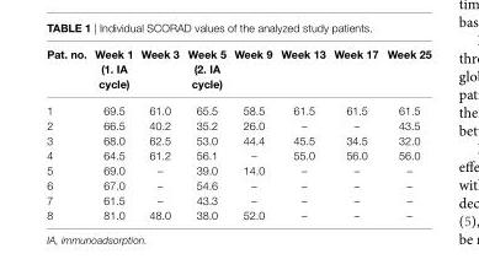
<table><thead><tr><td>Pat. no.</td><td>Week 1 (1. ia cycle)</td><td>Week 3</td><td>Week 5 (2. ia cycle)</td><td>Week 9</td><td>Week 13</td><td>Week 17</td><td>Week 25</td></tr></thead><tbody><tr><td>1</td><td>69.5</td><td>61.0</td><td>65.5</td><td>58.5</td><td>61.5</td><td>61.5</td><td>61.5</td></tr><tr><td>2</td><td>66.5</td><td>40.2</td><td>35.2</td><td>26.0</td><td>–</td><td>–</td><td>43.5</td></tr><tr><td>3</td><td>68.0</td><td>62.5</td><td>53.0</td><td>44.4</td><td>45.5</td><td>34.5</td><td>32.0</td></tr><tr><td>4</td><td>64.5</td><td>61.2</td><td>56.1</td><td>–</td><td>55.0</td><td>56.0</td><td>56.0</td></tr><tr><td>5</td><td>69.0</td><td>–</td><td>39.0</td><td>14.0</td><td>–</td><td>–</td><td>–</td></tr><tr><td>6</td><td>67.0</td><td>–</td><td>54.6</td><td>–</td><td>–</td><td>–</td><td>–</td></tr><tr><td>7</td><td>61.5</td><td>–</td><td>43.3</td><td>–</td><td>–</td><td>–</td><td>–</td></tr><tr><td>8</td><td>81.0</td><td>48.0</td><td>38.0</td><td>52.0</td><td>–</td><td>–</td><td>–</td></tr></tbody></table>